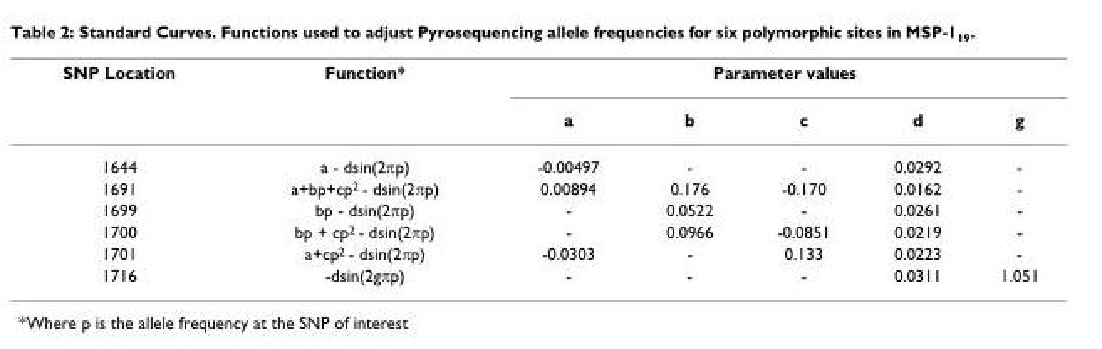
<table><thead><tr><td rowspan="2">SNP Location</td><td rowspan="2">Function*</td><td colspan="5">Parameter values</td></tr><tr><td>a</td><td>b</td><td>c</td><td>d</td><td>g</td></tr></thead><tbody><tr><td>1644</td><td>a - dsin(2πp)</td><td>-0.00497</td><td>-</td><td>-</td><td>0.0292</td><td>-</td></tr><tr><td>1691</td><td>a+bp+cp<sup>2</sup> - dsin(2πp)</td><td>0.00894</td><td>0.176</td><td>-0.170</td><td>0.0162</td><td>-</td></tr><tr><td>1699</td><td>bp - dsin(2πp)</td><td>-</td><td>0.0522</td><td>-</td><td>0.0261</td><td>-</td></tr><tr><td>1700</td><td>bp + cp<sup>2</sup> - dsin(2πp)</td><td>-</td><td>0.0966</td><td>-0.0851</td><td>0.0219</td><td>-</td></tr><tr><td>1701</td><td>a+cp<sup>2</sup> - dsin(2πp)</td><td>-0.0303</td><td>-</td><td>0.133</td><td>0.0223</td><td>-</td></tr><tr><td>1716</td><td>-dsin(2gπp)</td><td>-</td><td>-</td><td>-</td><td>0.0311</td><td>1.051</td></tr></tbody></table>